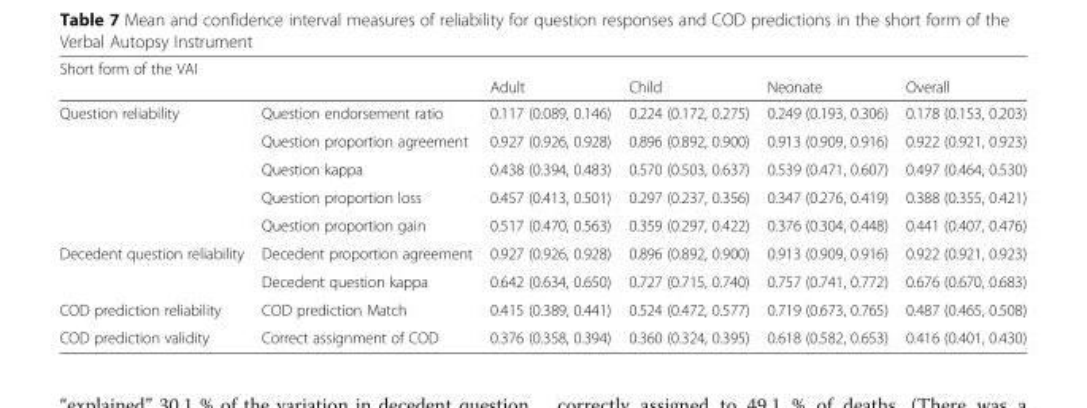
<table><thead><tr><td colspan="6">Short form of the VAI</td></tr><tr><td></td><td></td><td>Adult</td><td>Child</td><td>Neonate</td><td>Overall</td></tr></thead><tbody><tr><td rowspan="5">Question reliability</td><td>Question endorsement ratio</td><td>0.117 (0.089, 0.146)</td><td>0.224 (0.172, 0.275)</td><td>0.249 (0.193, 0.306)</td><td>0.178 (0.153, 0.203)</td></tr><tr><td>Question proportion agreement</td><td>0.927 (0.926, 0.928)</td><td>0.896 (0.892, 0.900)</td><td>0.913 (0.909, 0.916)</td><td>0.922 (0.921, 0.923)</td></tr><tr><td>Question kappa</td><td>0.438 (0.394, 0.483)</td><td>0.570 (0.503, 0.637)</td><td>0.539 (0.471, 0.607)</td><td>0.497 (0.464, 0.530)</td></tr><tr><td>Question proportion loss</td><td>0.457 (0.413, 0.501)</td><td>0.297 (0.237, 0.356)</td><td>0.347 (0.276, 0.419)</td><td>0.388 (0.355, 0.421)</td></tr><tr><td>Question proportion gain</td><td>0.517 (0.470, 0.563)</td><td>0.359 (0.297, 0.422)</td><td>0.376 (0.304, 0.448)</td><td>0.441 (0.407, 0.476)</td></tr><tr><td rowspan="2">Decedent question reliability</td><td>Decedent proportion agreement</td><td>0.927 (0.926, 0.928)</td><td>0.896 (0.892, 0.900)</td><td>0.913 (0.909, 0.916)</td><td>0.922 (0.921, 0.923)</td></tr><tr><td>Decedent question kappa</td><td>0.642 (0.634, 0.650)</td><td>0.727 (0.715, 0.740)</td><td>0.757 (0.741, 0.772)</td><td>0.676 (0.670, 0.683)</td></tr><tr><td>COD prediction reliability</td><td>COD prediction Match</td><td>0.415 (0.389, 0.441)</td><td>0.524 (0.472, 0.577)</td><td>0.719 (0.673, 0.765)</td><td>0.487 (0.465, 0.508)</td></tr><tr><td>COD prediction validity</td><td>Correct assignment of COD</td><td>0.376 (0.358, 0.394)</td><td>0.360 (0.324, 0.395)</td><td>0.618 (0.582, 0.653)</td><td>0.416 (0.401, 0.430)</td></tr></tbody></table>